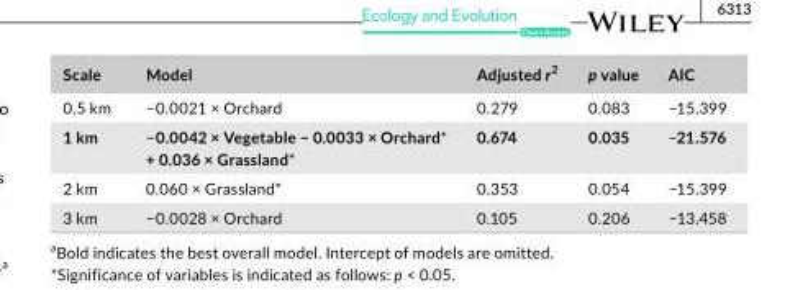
<table><thead><tr><td>Scale</td><td>Model</td><td>Adjusted r<sup>2</sup></td><td>p value</td><td>AIC</td></tr></thead><tbody><tr><td>0.5 km</td><td>−0.0021 × Orchard</td><td>0.279</td><td>0.083</td><td>−15.399</td></tr><tr><td>1 km</td><td>−0.0042 × Vegetable − 0.0033 × Orchard* + 0.036 × Grassland*</td><td>0.674</td><td>0.035</td><td>−21.576</td></tr><tr><td>2 km</td><td>0.060 × Grassland*</td><td>0.353</td><td>0.054</td><td>−15.399</td></tr><tr><td>3 km</td><td>−0.0028 × Orchard</td><td>0.105</td><td>0.206</td><td>−13.458</td></tr></tbody></table>